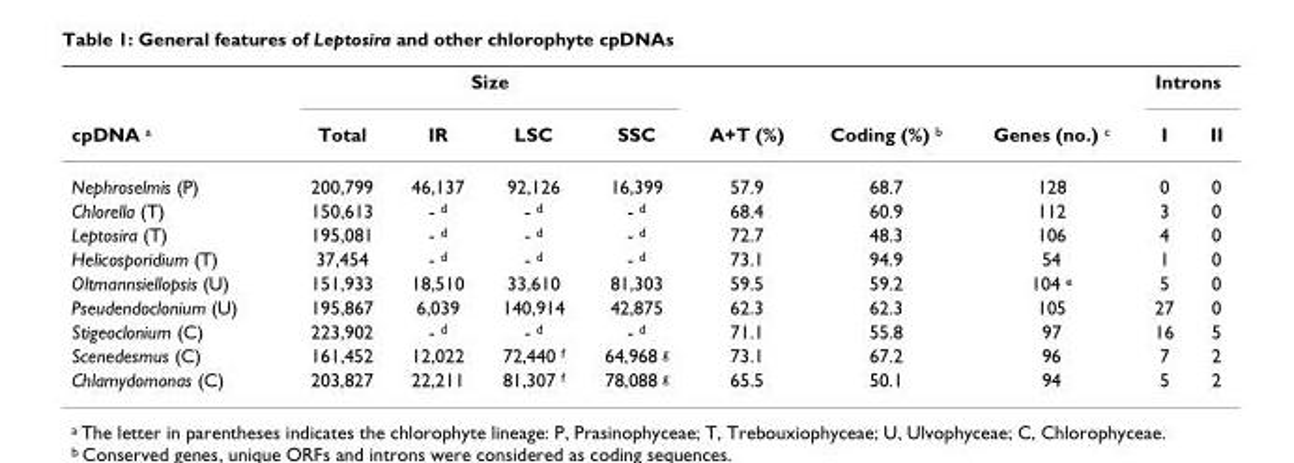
<table><thead><tr><td rowspan="2">cpDNA <sup>a</sup></td><td colspan="4">Size</td><td rowspan="2">A+T (%)</td><td rowspan="2">Coding (%) <sup>b</sup></td><td rowspan="2">Genes (no.) <sup>c</sup></td><td colspan="2">Introns</td></tr><tr><td>Total</td><td>IR</td><td>LSC</td><td>SSC</td><td>I</td><td>II</td></tr></thead><tbody><tr><td>Nephroselmis (P)</td><td>200,799</td><td>46,137</td><td>92,126</td><td>16,399</td><td>57.9</td><td>68.7</td><td>128</td><td>0</td><td>0</td></tr><tr><td>Chlorella (T)</td><td>150,613</td><td>- <sup>d</sup></td><td>- <sup>d</sup></td><td>- <sup>d</sup></td><td>68.4</td><td>60.9</td><td>112</td><td>3</td><td>0</td></tr><tr><td>Leptosira (T)</td><td>195,081</td><td>- <sup>d</sup></td><td>- <sup>d</sup></td><td>- <sup>d</sup></td><td>72.7</td><td>48.3</td><td>106</td><td>4</td><td>0</td></tr><tr><td>Helicosporidium (T)</td><td>37,454</td><td>- <sup>d</sup></td><td>- <sup>d</sup></td><td>- <sup>d</sup></td><td>73.1</td><td>94.9</td><td>54</td><td>1</td><td>0</td></tr><tr><td>Oltmannsiellopsis (U)</td><td>151,933</td><td>18,510</td><td>33,610</td><td>81,303</td><td>59.5</td><td>59.2</td><td>104 <sup>e</sup></td><td>5</td><td>0</td></tr><tr><td>Pseudendoclonium (U)</td><td>195,867</td><td>6,039</td><td>140,914</td><td>42,875</td><td>62.3</td><td>62.3</td><td>105</td><td>27</td><td>0</td></tr><tr><td>Stigeoclonium (C)</td><td>223,902</td><td>- <sup>d</sup></td><td>- <sup>d</sup></td><td>- <sup>d</sup></td><td>71.1</td><td>55.8</td><td>97</td><td>16</td><td>5</td></tr><tr><td>Scenedesmus (C)</td><td>161,452</td><td>12,022</td><td>72,440 <sup>f</sup></td><td>64,968 <sup>g</sup></td><td>73.1</td><td>67.2</td><td>96</td><td>7</td><td>2</td></tr><tr><td>Chlamydomonas (C)</td><td>203,827</td><td>22,211</td><td>81,307 <sup>f</sup></td><td>78,088 <sup>g</sup></td><td>65.5</td><td>50.1</td><td>94</td><td>5</td><td>2</td></tr></tbody></table>